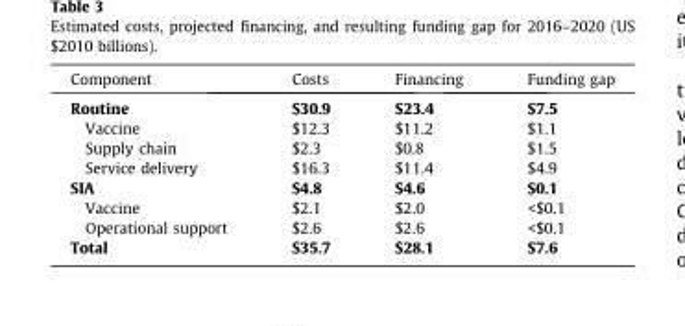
<table><thead><tr><td>Component</td><td>Costs</td><td>Financing</td><td>Funding gap</td></tr></thead><tbody><tr><td>Routine</td><td>$30.9</td><td>$23.4</td><td>$7.5</td></tr><tr><td>Vaccine</td><td>$12.3</td><td>$11.2</td><td>$1.1</td></tr><tr><td>Supply chain</td><td>$2.3</td><td>$0.8</td><td>$1.5</td></tr><tr><td>Service delivery</td><td>$16.3</td><td>$11.4</td><td>$4.9</td></tr><tr><td>SIA</td><td>$4.8</td><td>$4.6</td><td>$0.1</td></tr><tr><td>Vaccine</td><td>$2.1</td><td>$2.0</td><td>&lt;$0.1</td></tr><tr><td>Operational support</td><td>$2.6</td><td>$2.6</td><td>&lt;$0.1</td></tr><tr><td>Total</td><td>$35.7</td><td>$28.1</td><td>$7.6</td></tr></tbody></table>